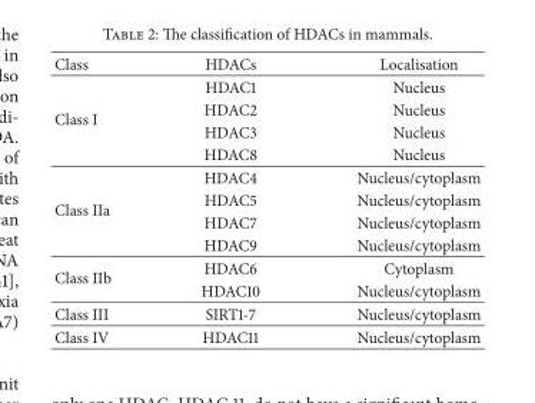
<table><thead><tr><td>Class</td><td>HDACs</td><td>Localisation</td></tr></thead><tbody><tr><td rowspan="4">Class I</td><td>HDAC1</td><td>Nucleus</td></tr><tr><td>HDAC2</td><td>Nucleus</td></tr><tr><td>HDAC3</td><td>Nucleus</td></tr><tr><td>HDAC8</td><td>Nucleus</td></tr><tr><td rowspan="4">Class IIa</td><td>HDAC4</td><td>Nucleus/cytoplasm</td></tr><tr><td>HDAC5</td><td>Nucleus/cytoplasm</td></tr><tr><td>HDAC7</td><td>Nucleus/cytoplasm</td></tr><tr><td>HDAC9</td><td>Nucleus/cytoplasm</td></tr><tr><td rowspan="2">Class IIb</td><td>HDAC6</td><td>Cytoplasm</td></tr><tr><td>HDAC10</td><td>Nucleus/cytoplasm</td></tr><tr><td>Class III</td><td>SIRT1-7</td><td>Nucleus/cytoplasm</td></tr><tr><td>Class IV</td><td>HDAC11</td><td>Nucleus/cytoplasm</td></tr></tbody></table>